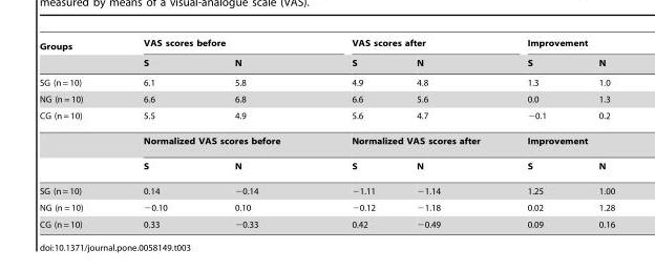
<table><thead><tr><td rowspan="2">Groups</td><td colspan="2">VAS scores before</td><td colspan="2">VAS scores after</td><td colspan="2">Improvement</td></tr><tr><td>S</td><td>N</td><td>S</td><td>N</td><td>S</td><td>N</td></tr></thead><tbody><tr><td>SG (n = 10)</td><td>6.1</td><td>5.8</td><td>4.9</td><td>4.8</td><td>1.3</td><td>1.0</td></tr><tr><td>NG (n = 10)</td><td>6.6</td><td>6.8</td><td>6.6</td><td>5.6</td><td>0.0</td><td>1.3</td></tr><tr><td rowspan="3">CG (n = 10)</td><td>5.5</td><td>4.9</td><td>5.6</td><td>4.7</td><td>−0.1</td><td>0.2</td></tr><tr><td colspan="2">Normalized VAS scores before</td><td colspan="2">Normalized VAS scores after</td><td colspan="2">Improvement</td></tr><tr><td>S</td><td>N</td><td>S</td><td>N</td><td>S</td><td>N</td></tr><tr><td>SG (n = 10)</td><td>0.14</td><td>−0.14</td><td>−1.11</td><td>−1.14</td><td>1.25</td><td>1.00</td></tr><tr><td>NG (n = 10)</td><td>−0.10</td><td>0.10</td><td>−0.12</td><td>−1.18</td><td>0.02</td><td>1.28</td></tr><tr><td>CG (n = 10)</td><td>0.33</td><td>−0.33</td><td>0.42</td><td>−0.49</td><td>0.09</td><td>0.16</td></tr></tbody></table>